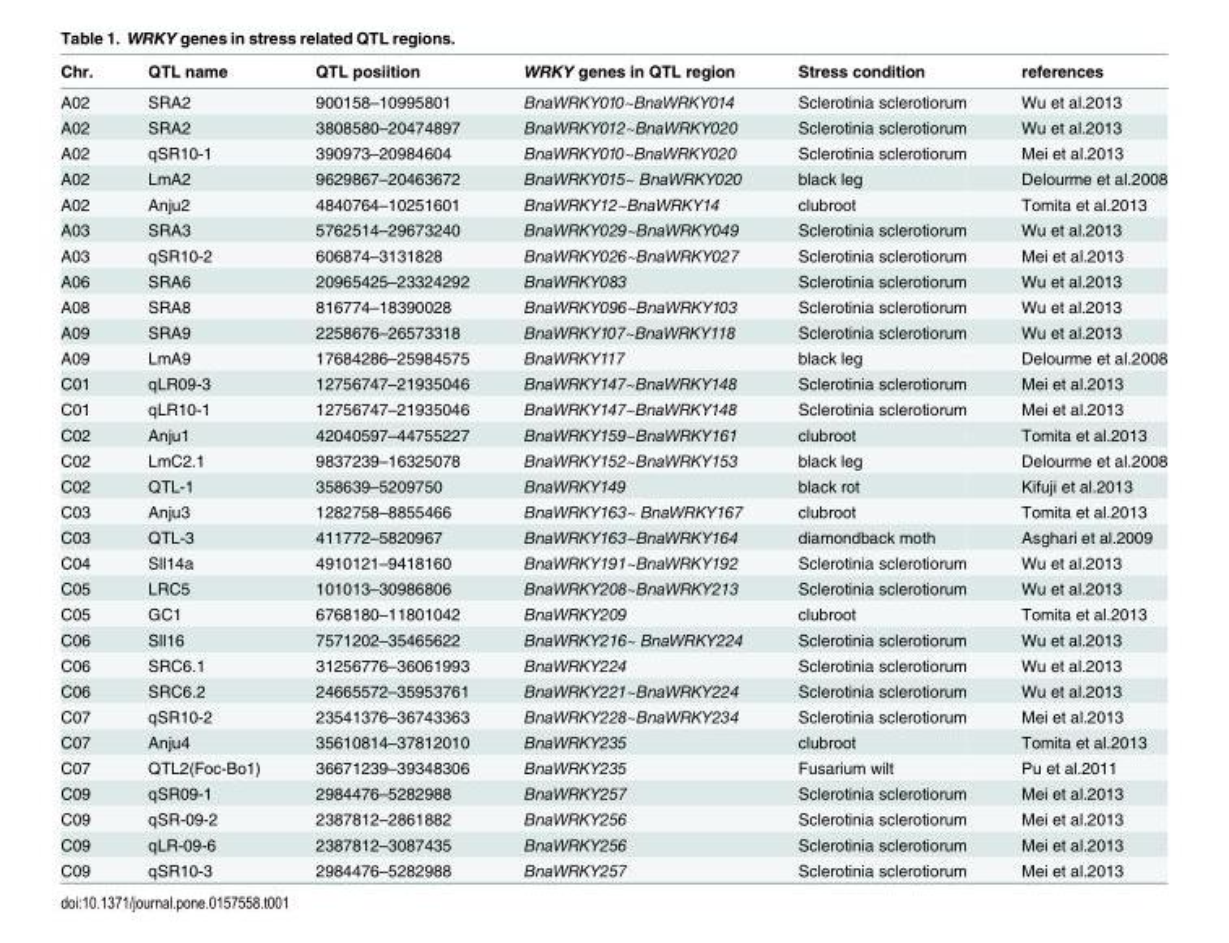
<table><thead><tr><td>Chr.</td><td>QTL name</td><td>QTL posiition</td><td>WRKY genes in QTL region</td><td>Stress condition</td><td>references</td></tr></thead><tbody><tr><td>A02</td><td>SRA2</td><td>900158–10995801</td><td>BnaWRKY010~BnaWRKY014</td><td>Sclerotinia sclerotiorum</td><td>Wu et al.2013</td></tr><tr><td>A02</td><td>SRA2</td><td>3808580–20474897</td><td>BnaWRKY012~BnaWRKY020</td><td>Sclerotinia sclerotiorum</td><td>Wu et al.2013</td></tr><tr><td>A02</td><td>qSR10-1</td><td>390973–20984604</td><td>BnaWRKY010~BnaWRKY020</td><td>Sclerotinia sclerotiorum</td><td>Mei et al.2013</td></tr><tr><td>A02</td><td>LmA2</td><td>9629867–20463672</td><td>BnaWRKY015~ BnaWRKY020</td><td>black leg</td><td>Delourme et al.2008</td></tr><tr><td>A02</td><td>Anju2</td><td>4840764–10251601</td><td>BnaWRKY12~BnaWRKY14</td><td>clubroot</td><td>Tomita et al.2013</td></tr><tr><td>A03</td><td>SRA3</td><td>5762514–29673240</td><td>BnaWRKY029~BnaWRKY049</td><td>Sclerotinia sclerotiorum</td><td>Wu et al.2013</td></tr><tr><td>A03</td><td>qSR10-2</td><td>606874–3131828</td><td>BnaWRKY026~BnaWRKY027</td><td>Sclerotinia sclerotiorum</td><td>Mei et al.2013</td></tr><tr><td>A06</td><td>SRA6</td><td>20965425–23324292</td><td>BnaWRKY083</td><td>Sclerotinia sclerotiorum</td><td>Wu et al.2013</td></tr><tr><td>A08</td><td>SRA8</td><td>816774–18390028</td><td>BnaWRKY096~BnaWRKY103</td><td>Sclerotinia sclerotiorum</td><td>Wu et al.2013</td></tr><tr><td>A09</td><td>SRA9</td><td>2258676–26573318</td><td>BnaWRKY107~BnaWRKY118</td><td>Sclerotinia sclerotiorum</td><td>Wu et al.2013</td></tr><tr><td>A09</td><td>LmA9</td><td>17684286–25984575</td><td>BnaWRKY117</td><td>black leg</td><td>Delourme et al.2008</td></tr><tr><td>C01</td><td>qLR09-3</td><td>12756747–21935046</td><td>BnaWRKY147~BnaWRKY148</td><td>Sclerotinia sclerotiorum</td><td>Mei et al.2013</td></tr><tr><td>C01</td><td>qLR10-1</td><td>12756747–21935046</td><td>BnaWRKY147~BnaWRKY148</td><td>Sclerotinia sclerotiorum</td><td>Mei et al.2013</td></tr><tr><td>C02</td><td>Anju1</td><td>42040597–44755227</td><td>BnaWRKY159~BnaWRKY161</td><td>clubroot</td><td>Tomita et al.2013</td></tr><tr><td>C02</td><td>LmC2.1</td><td>9837239–16325078</td><td>BnaWRKY152~BnaWRKY153</td><td>black leg</td><td>Delourme et al.2008</td></tr><tr><td>C02</td><td>QTL-1</td><td>358639–5209750</td><td>BnaWRKY149</td><td>black rot</td><td>Kifuji et al.2013</td></tr><tr><td>C03</td><td>Anju3</td><td>1282758–8855466</td><td>BnaWRKY163~ BnaWRKY167</td><td>clubroot</td><td>Tomita et al.2013</td></tr><tr><td>C03</td><td>QTL-3</td><td>411772–5820967</td><td>BnaWRKY163~BnaWRKY164</td><td>diamondback moth</td><td>Asghari et al.2009</td></tr><tr><td>C04</td><td>Sll14a</td><td>4910121–9418160</td><td>BnaWRKY191~BnaWRKY192</td><td>Sclerotinia sclerotiorum</td><td>Wu et al.2013</td></tr><tr><td>C05</td><td>LRC5</td><td>101013–30986806</td><td>BnaWRKY208~BnaWRKY213</td><td>Sclerotinia sclerotiorum</td><td>Wu et al.2013</td></tr><tr><td>C05</td><td>GC1</td><td>6768180–11801042</td><td>BnaWRKY209</td><td>clubroot</td><td>Tomita et al.2013</td></tr><tr><td>C06</td><td>Sll16</td><td>7571202–35465622</td><td>BnaWRKY216~ BnaWRKY224</td><td>Sclerotinia sclerotiorum</td><td>Wu et al.2013</td></tr><tr><td>C06</td><td>SRC6.1</td><td>31256776–36061993</td><td>BnaWRKY224</td><td>Sclerotinia sclerotiorum</td><td>Wu et al.2013</td></tr><tr><td>C06</td><td>SRC6.2</td><td>24665572–35953761</td><td>BnaWRKY221~BnaWRKY224</td><td>Sclerotinia sclerotiorum</td><td>Wu et al.2013</td></tr><tr><td>C07</td><td>qSR10-2</td><td>23541376–36743363</td><td>BnaWRKY228~BnaWRKY234</td><td>Sclerotinia sclerotiorum</td><td>Mei et al.2013</td></tr><tr><td>C07</td><td>Anju4</td><td>35610814–37812010</td><td>BnaWRKY235</td><td>clubroot</td><td>Tomita et al.2013</td></tr><tr><td>C07</td><td>QTL2(Foc-Bo1)</td><td>36671239–39348306</td><td>BnaWRKY235</td><td>Fusarium wilt</td><td>Pu et al.2011</td></tr><tr><td>C09</td><td>qSR09-1</td><td>2984476–5282988</td><td>BnaWRKY257</td><td>Sclerotinia sclerotiorum</td><td>Mei et al.2013</td></tr><tr><td>C09</td><td>qSR-09-2</td><td>2387812–2861882</td><td>BnaWRKY256</td><td>Sclerotinia sclerotiorum</td><td>Mei et al.2013</td></tr><tr><td>C09</td><td>qLR-09-6</td><td>2387812–3087435</td><td>BnaWRKY256</td><td>Sclerotinia sclerotiorum</td><td>Mei et al.2013</td></tr><tr><td>C09</td><td>qSR10-3</td><td>2984476–5282988</td><td>BnaWRKY257</td><td>Sclerotinia sclerotiorum</td><td>Mei et al.2013</td></tr></tbody></table>